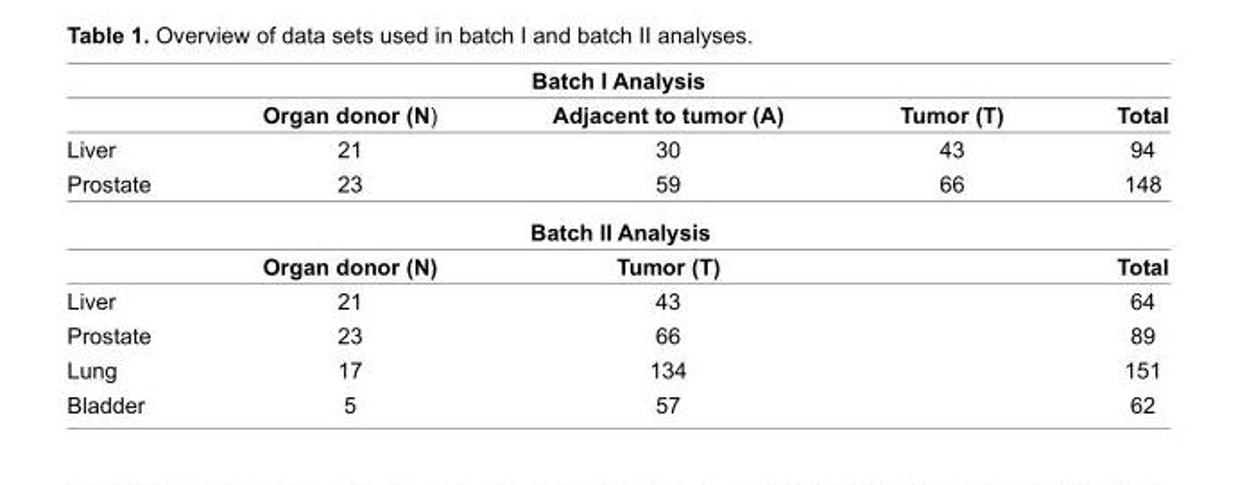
<table><tbody><tr><td colspan="5">Batch I Analysis</td></tr><tr><td></td><td>Organ donor (N)</td><td>Adjacent to tumor (A)</td><td>Tumor (T)</td><td>Total</td></tr><tr><td>Liver</td><td>21</td><td>30</td><td>43</td><td>94</td></tr><tr><td>Prostate</td><td>23</td><td>59</td><td>66</td><td>148</td></tr><tr><td colspan="5">Batch II Analysis</td></tr><tr><td></td><td>Organ donor (N)</td><td>Tumor (T)</td><td></td><td>Total</td></tr><tr><td>Liver</td><td>21</td><td>43</td><td></td><td>64</td></tr><tr><td>Prostate</td><td>23</td><td>66</td><td></td><td>89</td></tr><tr><td>Lung</td><td>17</td><td>134</td><td></td><td>151</td></tr><tr><td>Bladder</td><td>5</td><td>57</td><td></td><td>62</td></tr></tbody></table>